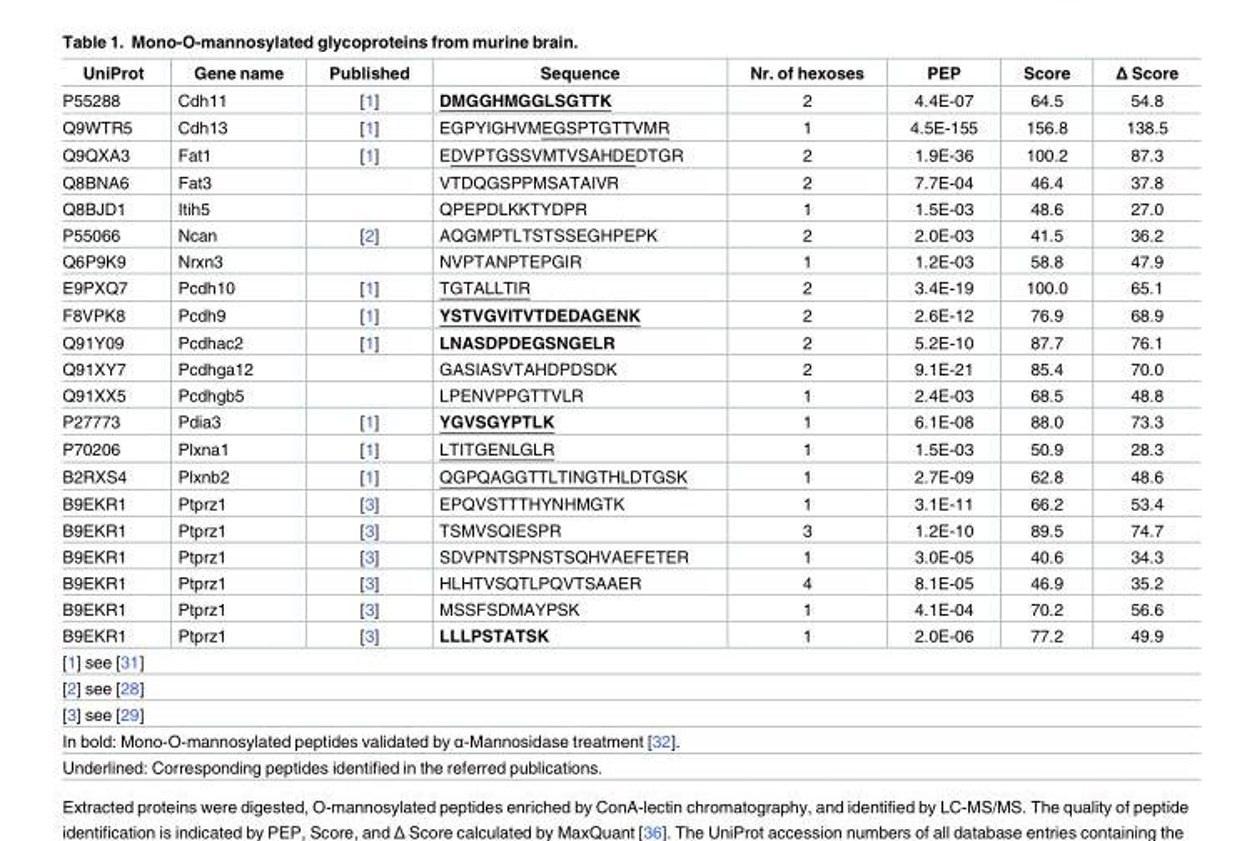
<table><thead><tr><td>UniProt</td><td>Gene name</td><td>Published</td><td>Sequence</td><td>Nr. of hexoses</td><td>PEP</td><td>Score</td><td>Δ Score</td></tr></thead><tbody><tr><td>P55288</td><td>Cdh11</td><td>[1]</td><td>DMGGHMGGLSGTTK</td><td>2</td><td>4.4E-07</td><td>64.5</td><td>54.8</td></tr><tr><td>Q9WTR5</td><td>Cdh13</td><td>[1]</td><td>EGPYIGHVMEGSPTGTTVMR</td><td>1</td><td>4.5E-155</td><td>156.8</td><td>138.5</td></tr><tr><td>Q9QXA3</td><td>Fat1</td><td>[1]</td><td>EDVPTGSSVMTVSAHDEDTGR</td><td>2</td><td>1.9E-36</td><td>100.2</td><td>87.3</td></tr><tr><td>Q8BNA6</td><td>Fat3</td><td></td><td>VTDQGSPPMSATAIVR</td><td>2</td><td>7.7E-04</td><td>46.4</td><td>37.8</td></tr><tr><td>Q8BJD1</td><td>Itih5</td><td></td><td>QPEPDLKKTYDPR</td><td>1</td><td>1.5E-03</td><td>48.6</td><td>27.0</td></tr><tr><td>P55066</td><td>Ncan</td><td>[2]</td><td>AQGMPTLTSTSSEGHPEPK</td><td>2</td><td>2.0E-03</td><td>41.5</td><td>36.2</td></tr><tr><td>Q6P9K9</td><td>Nrxn3</td><td></td><td>NVPTANPTEPGIR</td><td>1</td><td>1.2E-03</td><td>58.8</td><td>47.9</td></tr><tr><td>E9PXQ7</td><td>Pcdh10</td><td>[1]</td><td>TGTALLTIR</td><td>2</td><td>3.4E-19</td><td>100.0</td><td>65.1</td></tr><tr><td>F8VPK8</td><td>Pcdh9</td><td>[1]</td><td>YSTVGVITVTDEDAGENK</td><td>2</td><td>2.6E-12</td><td>76.9</td><td>68.9</td></tr><tr><td>Q91Y09</td><td>Pcdhac2</td><td>[1]</td><td>LNASDPDEGSNGELR</td><td>2</td><td>5.2E-10</td><td>87.7</td><td>76.1</td></tr><tr><td>Q91XY7</td><td>Pcdhga12</td><td></td><td>GASIASVTAHDPDSDK</td><td>2</td><td>9.1E-21</td><td>85.4</td><td>70.0</td></tr><tr><td>Q91XX5</td><td>Pcdhgb5</td><td></td><td>LPENVPPGTTVLR</td><td>1</td><td>2.4E-03</td><td>68.5</td><td>48.8</td></tr><tr><td>P27773</td><td>Pdia3</td><td>[1]</td><td>YGVSGYPTLK</td><td>1</td><td>6.1E-08</td><td>88.0</td><td>73.3</td></tr><tr><td>P70206</td><td>Plxna1</td><td>[1]</td><td>LTITGENLGLR</td><td>1</td><td>1.5E-03</td><td>50.9</td><td>28.3</td></tr><tr><td>B2RXS4</td><td>Plxnb2</td><td>[1]</td><td>QGPQAGGTTLTINGTHLDTGSK</td><td>1</td><td>2.7E-09</td><td>62.8</td><td>48.6</td></tr><tr><td>B9EKR1</td><td>Ptprz1</td><td>[3]</td><td>EPQVSTTTHYNHMGTK</td><td>1</td><td>3.1E-11</td><td>66.2</td><td>53.4</td></tr><tr><td>B9EKR1</td><td>Ptprz1</td><td>[3]</td><td>TSMVSQIESPR</td><td>3</td><td>1.2E-10</td><td>89.5</td><td>74.7</td></tr><tr><td>B9EKR1</td><td>Ptprz1</td><td>[3]</td><td>SDVPNTSPNSTSQHVAEFETER</td><td>1</td><td>3.0E-05</td><td>40.6</td><td>34.3</td></tr><tr><td>B9EKR1</td><td>Ptprz1</td><td>[3]</td><td>HLHTVSQTLPQVTSAAER</td><td>4</td><td>8.1E-05</td><td>46.9</td><td>35.2</td></tr><tr><td>B9EKR1</td><td>Ptprz1</td><td>[3]</td><td>MSSFSDMAYPSK</td><td>1</td><td>4.1E-04</td><td>70.2</td><td>56.6</td></tr><tr><td>B9EKR1</td><td>Ptprz1</td><td>[3]</td><td>LLLPSTATSK</td><td>1</td><td>2.0E-06</td><td>77.2</td><td>49.9</td></tr><tr><td colspan="8">[1] see [31]</td></tr><tr><td colspan="8">[2] see [28]</td></tr><tr><td colspan="8">[3] see [29]</td></tr><tr><td colspan="8">In bold: Mono-O-mannosylated peptides validated by α-Mannosidase treatment [32].</td></tr><tr><td colspan="8">Underlined: Corresponding peptides identified in the referred publications.</td></tr></tbody></table>